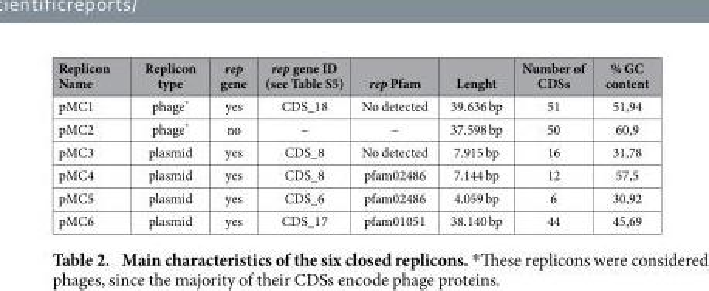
<table><thead><tr><td>Replicon Name</td><td>Replicon type</td><td>rep gene</td><td>rep gene ID (see Table S5)</td><td>rep Pfam</td><td>Lenght</td><td>Number of CDSs</td><td>% GC content</td></tr></thead><tbody><tr><td>pMC1</td><td>phage*</td><td>yes</td><td>CDS_18</td><td>No detected</td><td>39.636 bp</td><td>51</td><td>51,94</td></tr><tr><td>pMC2</td><td>phage*</td><td>no</td><td>–</td><td>–</td><td>37.598 bp</td><td>50</td><td>60,9</td></tr><tr><td>pMC3</td><td>plasmid</td><td>yes</td><td>CDS_8</td><td>No detected</td><td>7.915 bp</td><td>16</td><td>31,78</td></tr><tr><td>pMC4</td><td>plasmid</td><td>yes</td><td>CDS_8</td><td>pfam02486</td><td>7.144 bp</td><td>12</td><td>57,5</td></tr><tr><td>pMC5</td><td>plasmid</td><td>yes</td><td>CDS_6</td><td>pfam02486</td><td>4.059 bp</td><td>6</td><td>30,92</td></tr><tr><td>pMC6</td><td>plasmid</td><td>yes</td><td>CDS_17</td><td>pfam01051</td><td>38.140 bp</td><td>44</td><td>45,69</td></tr></tbody></table>